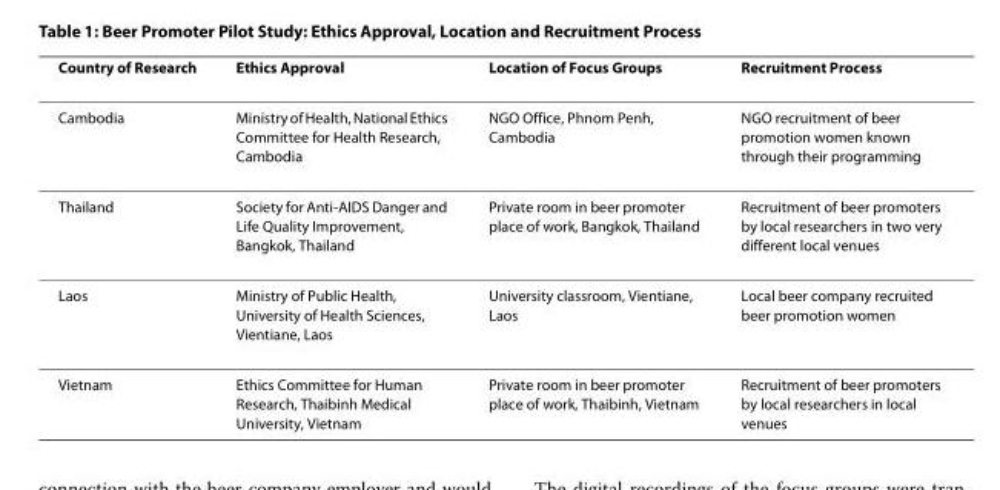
<table><thead><tr><td>Country of Research</td><td>Ethics Approval</td><td>Location of Focus Groups</td><td>Recruitment Process</td></tr></thead><tbody><tr><td>Cambodia</td><td>Ministry of Health, National Ethics Committee for Health Research, Cambodia</td><td>NGO Office, Phnom Penh, Cambodia</td><td>NGO recruitment of beer promotion women known through their programming</td></tr><tr><td>Thailand</td><td>Society for Anti-AIDS Danger and Life Quality Improvement, Bangkok, Thailand</td><td>Private room in beer promoter place of work, Bangkok, Thailand</td><td>Recruitment of beer promoters by local researchers in two very different local venues</td></tr><tr><td>Laos</td><td>Ministry of Public Health, University of Health Sciences, Vientiane, Laos</td><td>University classroom, Vientiane, Laos</td><td>Local beer company recruited beer promotion women</td></tr><tr><td>Vietnam</td><td>Ethics Committee for Human Research, Thaibinh Medical University, Vietnam</td><td>Private room in beer promoter place of work, Thaibinh, Vietnam</td><td>Recruitment of beer promoters by local researchers in local venues</td></tr></tbody></table>